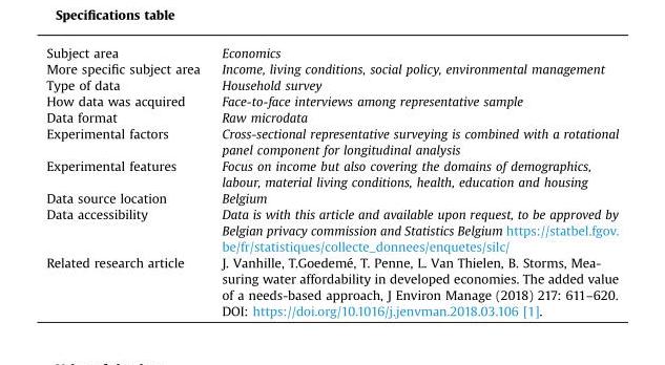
<table><tbody><tr><td>Subject area</td><td>Economics</td></tr><tr><td>More specific subject area</td><td>Income, living conditions, social policy, environmental management</td></tr><tr><td>Type of data</td><td>Household survey</td></tr><tr><td>How data was acquired</td><td>Face-to-face interviews among representative sample</td></tr><tr><td>Data format</td><td>Raw microdata</td></tr><tr><td>Experimental factors</td><td>Cross-sectional representative surveying is combined with a rotational panel component for longitudinal analysis</td></tr><tr><td>Experimental features</td><td>Focus on income but also covering the domains of demographics, labour, material living conditions, health, education and housing</td></tr><tr><td>Data source location</td><td>Belgium</td></tr><tr><td>Data accessibility</td><td>Data is with this article and available upon request, to be approved by Belgian privacy commission and Statistics Belgium https://statbel.fgov. be/fr/statistiques/collecte_donnees/enquetes/silc/</td></tr><tr><td>Related research article</td><td>J. Vanhille, T.Goedemé, T. Penne, L. Van Thielen, B. Storms, Mea- suring water affordability in developed economies. The added value of a needs-based approach, J Environ Manage (2018) 217: 611–620. DOI: https://doi.org/10.1016/j.jenvman.2018.03.106 [1].</td></tr></tbody></table>